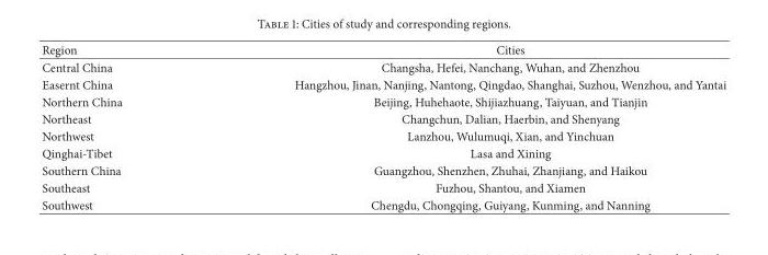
<table><thead><tr><td>Region</td><td>Cities</td></tr></thead><tbody><tr><td>Central China</td><td>Changsha, Hefei, Nanchang, Wuhan, and Zhenzhou</td></tr><tr><td>Easernt China</td><td>Hangzhou, Jinan, Nanjing, Nantong, Qingdao, Shanghai, Suzhou, Wenzhou, and Yantai</td></tr><tr><td>Northern China</td><td>Beijing, Huhehaote, Shijiazhuang, Taiyuan, and Tianjin</td></tr><tr><td>Northeast</td><td>Changchun, Dalian, Haerbin, and Shenyang</td></tr><tr><td>Northwest</td><td>Lanzhou, Wulumuqi, Xian, and Yinchuan</td></tr><tr><td>Qinghai-Tibet</td><td>Lasa and Xining</td></tr><tr><td>Southern China</td><td>Guangzhou, Shenzhen, Zhuhai, Zhanjiang, and Haikou</td></tr><tr><td>Southeast</td><td>Fuzhou, Shantou, and Xiamen</td></tr><tr><td>Southwest</td><td>Chengdu, Chongqing, Guiyang, Kunming, and Nanning</td></tr></tbody></table>